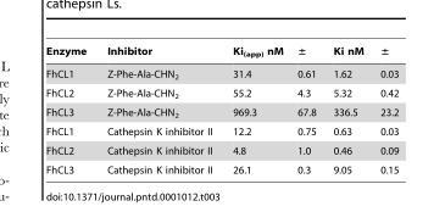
<table><thead><tr><td>Enzyme</td><td>Inhibitor</td><td>Ki<sub>(app)</sub> nM</td><td>±</td><td>Ki nM</td><td>±</td></tr></thead><tbody><tr><td>FhCL1</td><td>Z-Phe-Ala-CHN<sub>2</sub></td><td>31.4</td><td>0.61</td><td>1.62</td><td>0.03</td></tr><tr><td>FhCL2</td><td>Z-Phe-Ala-CHN<sub>2</sub></td><td>55.2</td><td>4.3</td><td>5.32</td><td>0.42</td></tr><tr><td>FhCL3</td><td>Z-Phe-Ala-CHN<sub>2</sub></td><td>969.3</td><td>67.8</td><td>336.5</td><td>23.2</td></tr><tr><td>FhCL1</td><td>Cathepsin K inhibitor II</td><td>12.2</td><td>0.75</td><td>0.63</td><td>0.03</td></tr><tr><td>FhCL2</td><td>Cathepsin K inhibitor II</td><td>4.8</td><td>1.0</td><td>0.46</td><td>0.09</td></tr><tr><td>FhCL3</td><td>Cathepsin K inhibitor II</td><td>26.1</td><td>0.3</td><td>9.05</td><td>0.15</td></tr></tbody></table>